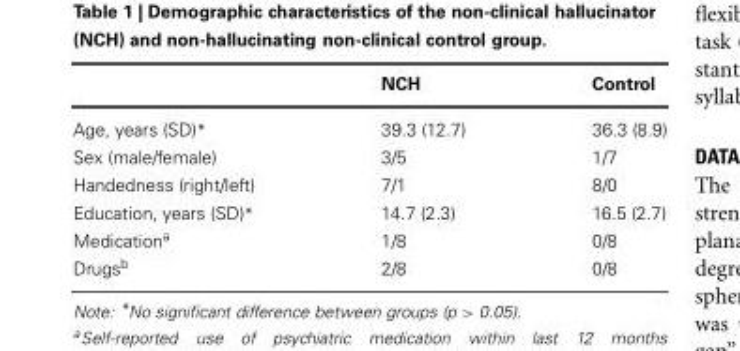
<table><thead><tr><td></td><td>NCH</td><td>Control</td></tr></thead><tbody><tr><td>Age, years (SD)*</td><td>39.3 (12.7)</td><td>36.3 (8.9)</td></tr><tr><td>Sex (male/female)</td><td>3/5</td><td>1/7</td></tr><tr><td>Handedness (right/left)</td><td>7/1</td><td>8/0</td></tr><tr><td>Education, years (SD)*</td><td>14.7 (2.3)</td><td>16.5 (2.7)</td></tr><tr><td>Medication<sup>a</sup></td><td>1/8</td><td>0/8</td></tr><tr><td>Drugs<sup>b</sup></td><td>2/8</td><td>0/8</td></tr></tbody></table>